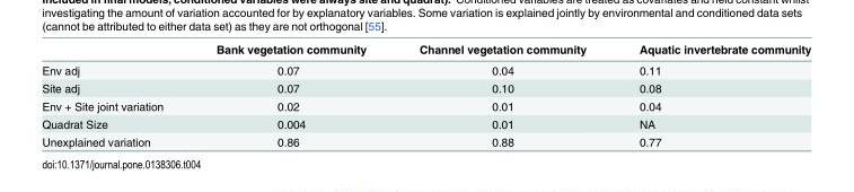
<table><thead><tr><td></td><td>Bank vegetation community</td><td>Channel vegetation community</td><td>Aquatic invertebrate community</td></tr></thead><tbody><tr><td>Env adj</td><td>0.07</td><td>0.04</td><td>0.11</td></tr><tr><td>Site adj</td><td>0.07</td><td>0.10</td><td>0.08</td></tr><tr><td>Env + Site joint variation</td><td>0.02</td><td>0.01</td><td>0.04</td></tr><tr><td>Quadrat Size</td><td>0.004</td><td>0.01</td><td>NA</td></tr><tr><td>Unexplained variation</td><td>0.86</td><td>0.88</td><td>0.77</td></tr></tbody></table>